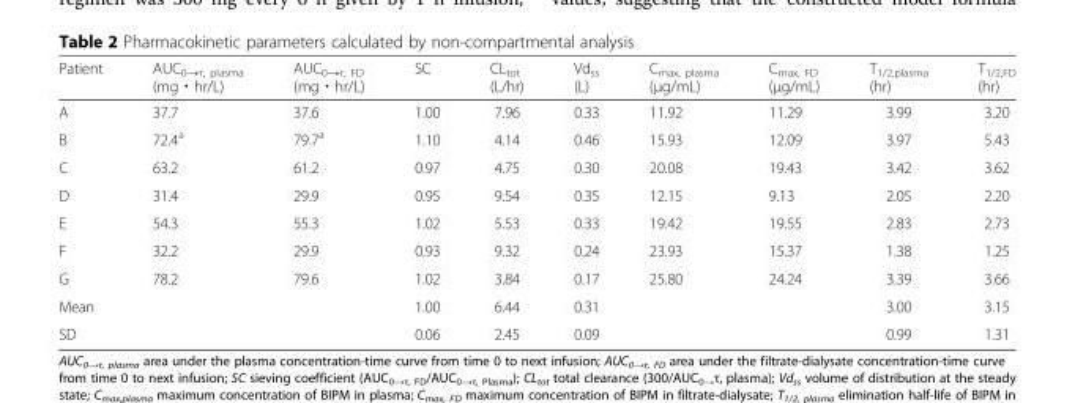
<table><thead><tr><td>Patient</td><td>AUC<sub>0→τ, plasma</sub> (mg・hr/L)</td><td>AUC<sub>0→τ, FD</sub> (mg・hr/L)</td><td>SC</td><td>CL<sub>tot</sub> (L/hr)</td><td>Vd<sub>ss</sub> (L)</td><td>C<sub>max, plasma</sub> (μg/mL)</td><td>C<sub>max, FD</sub> (μg/mL)</td><td>T<sub>1/2,plasma</sub> (hr)</td><td>T<sub>1/2,FD</sub> (hr)</td></tr></thead><tbody><tr><td>A</td><td>37.7</td><td>37.6</td><td>1.00</td><td>7.96</td><td>0.33</td><td>11.92</td><td>11.29</td><td>3.99</td><td>3.20</td></tr><tr><td>B</td><td>72.4<sup>a</sup></td><td>79.7<sup>a</sup></td><td>1.10</td><td>4.14</td><td>0.46</td><td>15.93</td><td>12.09</td><td>3.97</td><td>5.43</td></tr><tr><td>C</td><td>63.2</td><td>61.2</td><td>0.97</td><td>4.75</td><td>0.30</td><td>20.08</td><td>19.43</td><td>3.42</td><td>3.62</td></tr><tr><td>D</td><td>31.4</td><td>29.9</td><td>0.95</td><td>9.54</td><td>0.35</td><td>12.15</td><td>9.13</td><td>2.05</td><td>2.20</td></tr><tr><td>E</td><td>54.3</td><td>55.3</td><td>1.02</td><td>5.53</td><td>0.33</td><td>19.42</td><td>19.55</td><td>2.83</td><td>2.73</td></tr><tr><td>F</td><td>32.2</td><td>29.9</td><td>0.93</td><td>9.32</td><td>0.24</td><td>23.93</td><td>15.37</td><td>1.38</td><td>1.25</td></tr><tr><td>G</td><td>78.2</td><td>79.6</td><td>1.02</td><td>3.84</td><td>0.17</td><td>25.80</td><td>24.24</td><td>3.39</td><td>3.66</td></tr><tr><td>Mean</td><td></td><td></td><td>1.00</td><td>6.44</td><td>0.31</td><td></td><td></td><td>3.00</td><td>3.15</td></tr><tr><td>SD</td><td></td><td></td><td>0.06</td><td>2.45</td><td>0.09</td><td></td><td></td><td>0.99</td><td>1.31</td></tr></tbody></table>